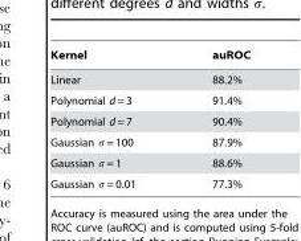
<table><thead><tr><td>Kernel</td><td>auROC</td></tr></thead><tbody><tr><td>Linear</td><td>88.2%</td></tr><tr><td>Polynomial d = 3</td><td>91.4%</td></tr><tr><td>Polynomial d = 7</td><td>90.4%</td></tr><tr><td>Gaussian σ = 100</td><td>87.9%</td></tr><tr><td>Gaussian σ = 1</td><td>88.6%</td></tr><tr><td>Gaussian σ = 0.01</td><td>77.3%</td></tr></tbody></table>